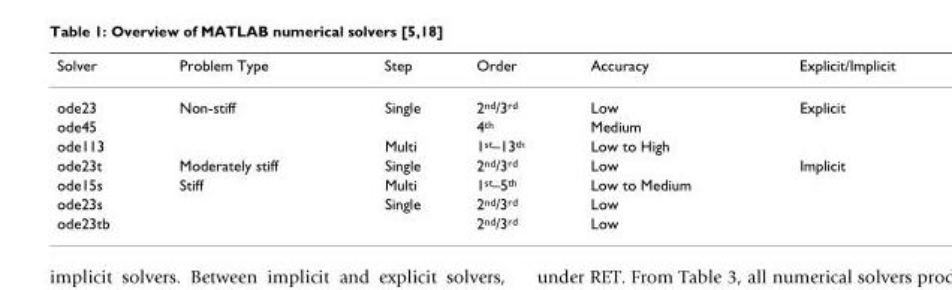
<table><thead><tr><td>Solver</td><td>Problem Type</td><td>Step</td><td>Order</td><td>Accuracy</td><td>Explicit/Implicit</td></tr></thead><tbody><tr><td>ode23</td><td>Non-stiff</td><td>Single</td><td>2<sup>nd</sup>/3<sup>rd</sup></td><td>Low</td><td>Explicit</td></tr><tr><td>ode45</td><td></td><td></td><td>4<sup>th</sup></td><td>Medium</td><td></td></tr><tr><td>ode113</td><td></td><td>Multi</td><td>1<sup>st</sup>–13<sup>th</sup></td><td>Low to High</td><td></td></tr><tr><td>ode23t</td><td>Moderately stiff</td><td>Single</td><td>2<sup>nd</sup>/3<sup>rd</sup></td><td>Low</td><td>Implicit</td></tr><tr><td>ode15s</td><td>Stiff</td><td>Multi</td><td>1<sup>st</sup>–5<sup>th</sup></td><td>Low to Medium</td><td></td></tr><tr><td>ode23s</td><td></td><td>Single</td><td>2<sup>nd</sup>/3<sup>rd</sup></td><td>Low</td><td></td></tr><tr><td>ode23tb</td><td></td><td></td><td>2<sup>nd</sup>/3<sup>rd</sup></td><td>Low</td><td></td></tr></tbody></table>